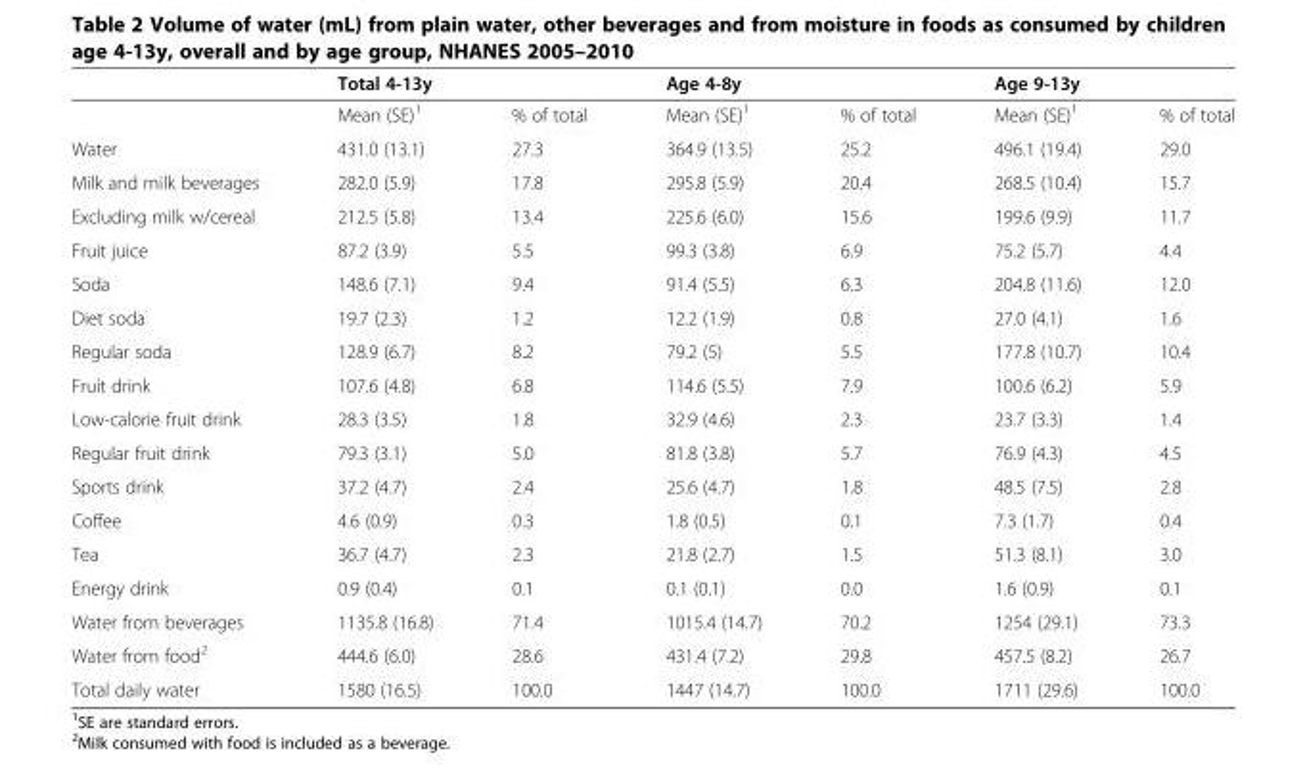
<table><thead><tr><td rowspan="2"></td><td colspan="2">Total 4-13y</td><td colspan="2">Age 4-8y</td><td colspan="2">Age 9-13y</td></tr><tr><td>Mean (SE)<sup>1</sup></td><td>% of total</td><td>Mean (SE)<sup>1</sup></td><td>% of total</td><td>Mean (SE)<sup>1</sup></td><td>% of total</td></tr></thead><tbody><tr><td>Water</td><td>431.0 (13.1)</td><td>27.3</td><td>364.9 (13.5)</td><td>25.2</td><td>496.1 (19.4)</td><td>29.0</td></tr><tr><td>Milk and milk beverages</td><td>282.0 (5.9)</td><td>17.8</td><td>295.8 (5.9)</td><td>20.4</td><td>268.5 (10.4)</td><td>15.7</td></tr><tr><td>Excluding milk w/cereal</td><td>212.5 (5.8)</td><td>13.4</td><td>225.6 (6.0)</td><td>15.6</td><td>199.6 (9.9)</td><td>11.7</td></tr><tr><td>Fruit juice</td><td>87.2 (3.9)</td><td>5.5</td><td>99.3 (3.8)</td><td>6.9</td><td>75.2 (5.7)</td><td>4.4</td></tr><tr><td>Soda</td><td>148.6 (7.1)</td><td>9.4</td><td>91.4 (5.5)</td><td>6.3</td><td>204.8 (11.6)</td><td>12.0</td></tr><tr><td>Diet soda</td><td>19.7 (2.3)</td><td>1.2</td><td>12.2 (1.9)</td><td>0.8</td><td>27.0 (4.1)</td><td>1.6</td></tr><tr><td>Regular soda</td><td>128.9 (6.7)</td><td>8.2</td><td>79.2 (5)</td><td>5.5</td><td>177.8 (10.7)</td><td>10.4</td></tr><tr><td>Fruit drink</td><td>107.6 (4.8)</td><td>6.8</td><td>114.6 (5.5)</td><td>7.9</td><td>100.6 (6.2)</td><td>5.9</td></tr><tr><td>Low-calorie fruit drink</td><td>28.3 (3.5)</td><td>1.8</td><td>32.9 (4.6)</td><td>2.3</td><td>23.7 (3.3)</td><td>1.4</td></tr><tr><td>Regular fruit drink</td><td>79.3 (3.1)</td><td>5.0</td><td>81.8 (3.8)</td><td>5.7</td><td>76.9 (4.3)</td><td>4.5</td></tr><tr><td>Sports drink</td><td>37.2 (4.7)</td><td>2.4</td><td>25.6 (4.7)</td><td>1.8</td><td>48.5 (7.5)</td><td>2.8</td></tr><tr><td>Coffee</td><td>4.6 (0.9)</td><td>0.3</td><td>1.8 (0.5)</td><td>0.1</td><td>7.3 (1.7)</td><td>0.4</td></tr><tr><td>Tea</td><td>36.7 (4.7)</td><td>2.3</td><td>21.8 (2.7)</td><td>1.5</td><td>51.3 (8.1)</td><td>3.0</td></tr><tr><td>Energy drink</td><td>0.9 (0.4)</td><td>0.1</td><td>0.1 (0.1)</td><td>0.0</td><td>1.6 (0.9)</td><td>0.1</td></tr><tr><td>Water from beverages</td><td>1135.8 (16.8)</td><td>71.4</td><td>1015.4 (14.7)</td><td>70.2</td><td>1254 (29.1)</td><td>73.3</td></tr><tr><td>Water from food<sup>2</sup></td><td>444.6 (6.0)</td><td>28.6</td><td>431.4 (7.2)</td><td>29.8</td><td>457.5 (8.2)</td><td>26.7</td></tr><tr><td>Total daily water</td><td>1580 (16.5)</td><td>100.0</td><td>1447 (14.7)</td><td>100.0</td><td>1711 (29.6)</td><td>100.0</td></tr></tbody></table>